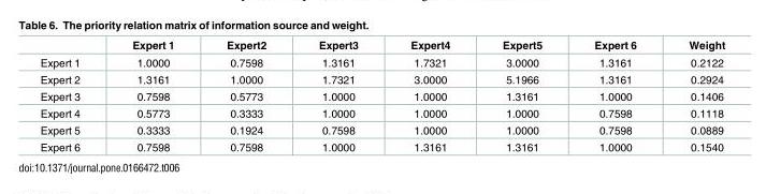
<table><thead><tr><td></td><td>Expert 1</td><td>Expert2</td><td>Expert3</td><td>Expert4</td><td>Expert5</td><td>Expert 6</td><td>Weight</td></tr></thead><tbody><tr><td>Expert 1</td><td>1.0000</td><td>0.7598</td><td>1.3161</td><td>1.7321</td><td>3.0000</td><td>1.3161</td><td>0.2122</td></tr><tr><td>Expert 2</td><td>1.3161</td><td>1.0000</td><td>1.7321</td><td>3.0000</td><td>5.1966</td><td>1.3161</td><td>0.2924</td></tr><tr><td>Expert 3</td><td>0.7598</td><td>0.5773</td><td>1.0000</td><td>1.0000</td><td>1.3161</td><td>1.0000</td><td>0.1406</td></tr><tr><td>Expert 4</td><td>0.5773</td><td>0.3333</td><td>1.0000</td><td>1.0000</td><td>1.0000</td><td>0.7598</td><td>0.1118</td></tr><tr><td>Expert 5</td><td>0.3333</td><td>0.1924</td><td>0.7598</td><td>1.0000</td><td>1.0000</td><td>0.7598</td><td>0.0889</td></tr><tr><td>Expert 6</td><td>0.7598</td><td>0.7598</td><td>1.0000</td><td>1.3161</td><td>1.3161</td><td>1.0000</td><td>0.1540</td></tr></tbody></table>